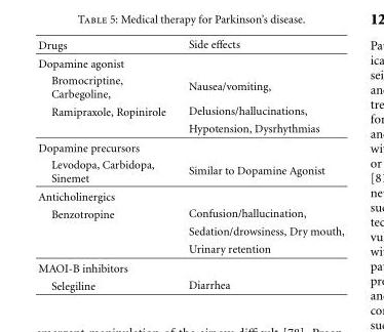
<table><thead><tr><td>Drugs</td><td>Side effects</td></tr></thead><tbody><tr><td colspan="2">Dopamine agonist</td></tr><tr><td>Bromocriptine, Carbegoline,</td><td>Nausea/vomiting,</td></tr><tr><td rowspan="2">Ramipraxole, Ropinirole</td><td>Delusions/hallucinations,</td></tr><tr><td>Hypotension, Dysrhythmias</td></tr><tr><td colspan="2">Dopamine precursors</td></tr><tr><td>Levodopa, Carbidopa, Sinemet</td><td>Similar to Dopamine Agonist</td></tr><tr><td colspan="2">Anticholinergics</td></tr><tr><td rowspan="3">Benzotropine</td><td>Confusion/hallucination,</td></tr><tr><td>Sedation/drowsiness, Dry mouth,</td></tr><tr><td>Urinary retention</td></tr><tr><td colspan="2">MAOI-B inhibitors</td></tr><tr><td>Selegiline</td><td>Diarrhea</td></tr></tbody></table>